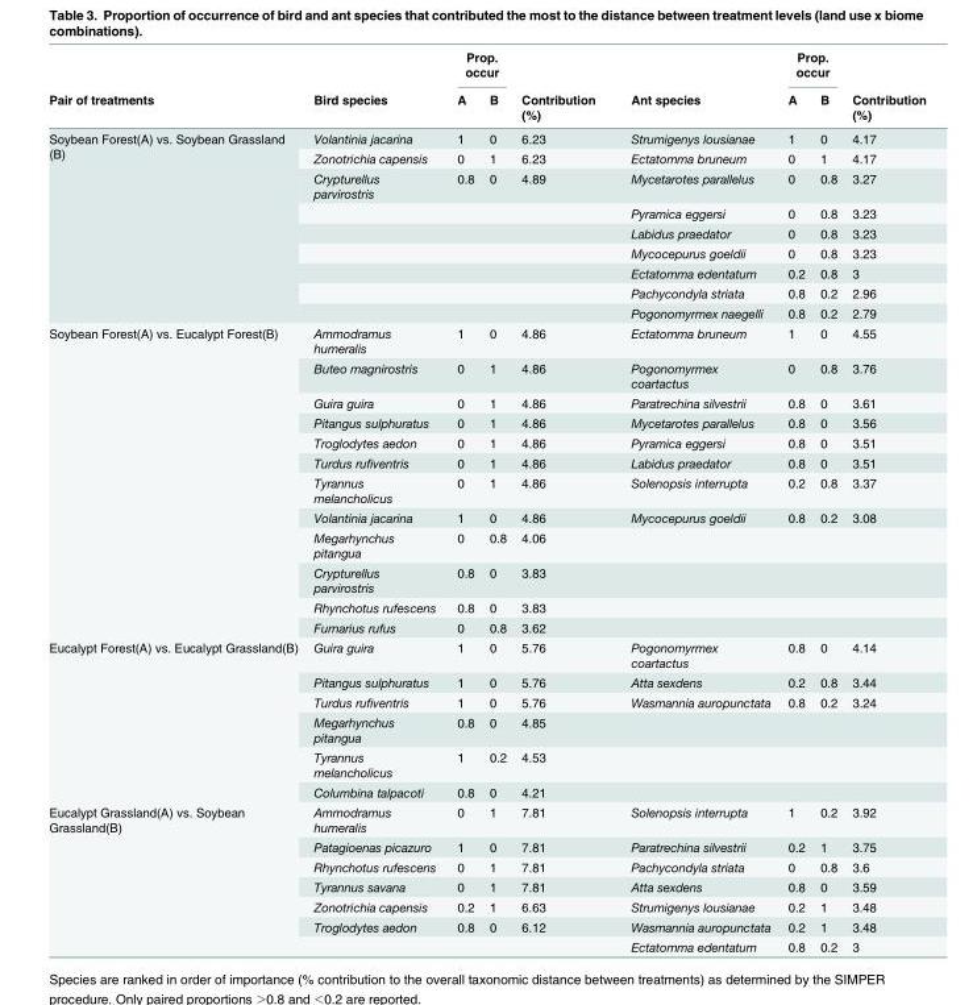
<table><thead><tr><td rowspan="2">Pair of treatments</td><td rowspan="2">Bird species</td><td colspan="2">Prop. occur</td><td rowspan="2">Contribution (%)</td><td rowspan="2">Ant species</td><td colspan="2">Prop. occur</td><td rowspan="2">Contribution (%)</td></tr><tr><td>A</td><td>B</td><td>A</td><td>B</td></tr></thead><tbody><tr><td rowspan="9">Soybean Forest(A) vs. Soybean Grassland (B)</td><td>Volantinia jacarina</td><td>1</td><td>0</td><td>6.23</td><td>Strumigenys lousianae</td><td>1</td><td>0</td><td>4.17</td></tr><tr><td>Zonotrichia capensis</td><td>0</td><td>1</td><td>6.23</td><td>Ectatomma bruneum</td><td>0</td><td>1</td><td>4.17</td></tr><tr><td>Crypturellus parvirostris</td><td>0.8</td><td>0</td><td>4.89</td><td>Mycetarotes parallelus</td><td>0</td><td>0.8</td><td>3.27</td></tr><tr><td></td><td></td><td></td><td></td><td>Pyramica eggersi</td><td>0</td><td>0.8</td><td>3.23</td></tr><tr><td></td><td></td><td></td><td></td><td>Labidus praedator</td><td>0</td><td>0.8</td><td>3.23</td></tr><tr><td></td><td></td><td></td><td></td><td>Mycocepurus goeldii</td><td>0</td><td>0.8</td><td>3.23</td></tr><tr><td></td><td></td><td></td><td></td><td>Ectatomma edentatum</td><td>0.2</td><td>0.8</td><td>3</td></tr><tr><td></td><td></td><td></td><td></td><td>Pachycondyla striata</td><td>0.8</td><td>0.2</td><td>2.96</td></tr><tr><td></td><td></td><td></td><td></td><td>Pogonomyrmex naegelli</td><td>0.8</td><td>0.2</td><td>2.79</td></tr><tr><td rowspan="12">Soybean Forest(A) vs. Eucalypt Forest(B)</td><td>Ammodramus humeralis</td><td>1</td><td>0</td><td>4.86</td><td>Ectatomma bruneum</td><td>1</td><td>0</td><td>4.55</td></tr><tr><td>Buteo magnirostris</td><td>0</td><td>1</td><td>4.86</td><td>Pogonomyrmex coartactus</td><td>0</td><td>0.8</td><td>3.76</td></tr><tr><td>Guira guira</td><td>0</td><td>1</td><td>4.86</td><td>Paratrechina silvestrii</td><td>0.8</td><td>0</td><td>3.61</td></tr><tr><td>Pitangus sulphuratus</td><td>0</td><td>1</td><td>4.86</td><td>Mycetarotes parallelus</td><td>0.8</td><td>0</td><td>3.56</td></tr><tr><td>Troglodytes aedon</td><td>0</td><td>1</td><td>4.86</td><td>Pyramica eggersi</td><td>0.8</td><td>0</td><td>3.51</td></tr><tr><td>Turdus rufiventris</td><td>0</td><td>1</td><td>4.86</td><td>Labidus praedator</td><td>0.8</td><td>0</td><td>3.51</td></tr><tr><td>Tyrannus melancholicus</td><td>0</td><td>1</td><td>4.86</td><td>Solenopsis interrupta</td><td>0.2</td><td>0.8</td><td>3.37</td></tr><tr><td>Volantinia jacarina</td><td>1</td><td>0</td><td>4.86</td><td>Mycocepurus goeldii</td><td>0.8</td><td>0.2</td><td>3.08</td></tr><tr><td>Megarhynchus pitangua</td><td>0</td><td>0.8</td><td>4.06</td><td></td><td></td><td></td><td></td></tr><tr><td>Crypturellus parvirostris</td><td>0.8</td><td>0</td><td>3.83</td><td></td><td></td><td></td><td></td></tr><tr><td>Rhynchotus rufescens</td><td>0.8</td><td>0</td><td>3.83</td><td></td><td></td><td></td><td></td></tr><tr><td>Furnarius rufus</td><td>0</td><td>0.8</td><td>3.62</td><td></td><td></td><td></td><td></td></tr><tr><td rowspan="6">Eucalypt Forest(A) vs. Eucalypt Grassland(B)</td><td>Guira guira</td><td>1</td><td>0</td><td>5.76</td><td>Pogonomyrmex coartactus</td><td>0.8</td><td>0</td><td>4.14</td></tr><tr><td>Pitangus sulphuratus</td><td>1</td><td>0</td><td>5.76</td><td>Atta sexdens</td><td>0.2</td><td>0.8</td><td>3.44</td></tr><tr><td>Turdus rufiventris</td><td>1</td><td>0</td><td>5.76</td><td>Wasmannia auropunctata</td><td>0.8</td><td>0.2</td><td>3.24</td></tr><tr><td>Megarhynchus pitangua</td><td>0.8</td><td>0</td><td>4.85</td><td></td><td></td><td></td><td></td></tr><tr><td>Tyrannus melancholicus</td><td>1</td><td>0.2</td><td>4.53</td><td></td><td></td><td></td><td></td></tr><tr><td>Columbina talpacoti</td><td>0.8</td><td>0</td><td>4.21</td><td></td><td></td><td></td><td></td></tr><tr><td rowspan="7">Eucalypt Grassland(A) vs. Soybean Grassland(B)</td><td>Ammodramus humeralis</td><td>0</td><td>1</td><td>7.81</td><td>Solenopsis interrupta</td><td>1</td><td>0.2</td><td>3.92</td></tr><tr><td>Patagioenas picazuro</td><td>1</td><td>0</td><td>7.81</td><td>Paratrechina silvestrii</td><td>0.2</td><td>1</td><td>3.75</td></tr><tr><td>Rhynchotus rufescens</td><td>0</td><td>1</td><td>7.81</td><td>Pachycondyla striata</td><td>0</td><td>0.8</td><td>3.6</td></tr><tr><td>Tyrannus savana</td><td>0</td><td>1</td><td>7.81</td><td>Atta sexdens</td><td>0.8</td><td>0</td><td>3.59</td></tr><tr><td>Zonotrichia capensis</td><td>0.2</td><td>1</td><td>6.63</td><td>Strumigenys lousianae</td><td>0.2</td><td>1</td><td>3.48</td></tr><tr><td>Troglodytes aedon</td><td>0.8</td><td>0</td><td>6.12</td><td>Wasmannia auropunctata</td><td>0.2</td><td>1</td><td>3.48</td></tr><tr><td></td><td></td><td></td><td></td><td>Ectatomma edentatum</td><td>0.8</td><td>0.2</td><td>3</td></tr></tbody></table>